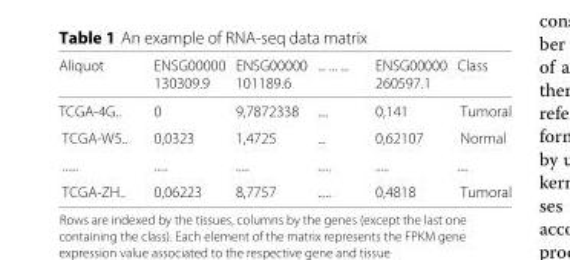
<table><thead><tr><td>Aliquot</td><td>ENSG00000 130309.9</td><td>ENSG00000 101189.6</td><td>... ... ...</td><td>ENSG00000 260597.1</td><td>Class</td></tr></thead><tbody><tr><td>TCGA-4G..</td><td>0</td><td>9,7872338</td><td>....</td><td>0,141</td><td>Tumoral</td></tr><tr><td>TCGA-W5..</td><td>0,0323</td><td>1,4725</td><td>...</td><td>0,62107</td><td>Normal</td></tr><tr><td>......</td><td>.....</td><td>.....</td><td>.....</td><td>.....</td><td>....</td></tr><tr><td>TCGA-ZH..</td><td>0,06223</td><td>8,7757</td><td>.....</td><td>0,4818</td><td>Tumoral</td></tr></tbody></table>